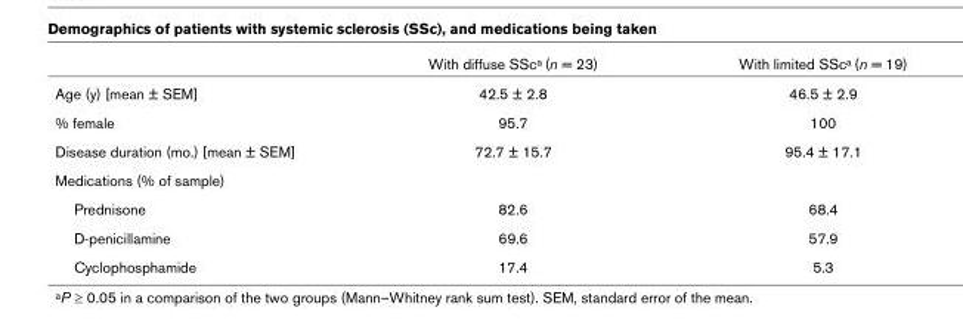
<table><thead><tr><td></td><td>With diffuse SSca (n = 23)</td><td>With limited SSca (n = 19)</td></tr></thead><tbody><tr><td>Age (y) [mean ± SEM]</td><td>42.5 ± 2.8</td><td>46.5 ± 2.9</td></tr><tr><td>% female</td><td>95.7</td><td>100</td></tr><tr><td>Disease duration (mo.) [mean ± SEM]</td><td>72.7 ± 15.7</td><td>95.4 ± 17.1</td></tr><tr><td colspan="3">Medications (% of sample)</td></tr><tr><td>Prednisone</td><td>82.6</td><td>68.4</td></tr><tr><td>D-penicillamine</td><td>69.6</td><td>57.9</td></tr><tr><td>Cyclophosphamide</td><td>17.4</td><td>5.3</td></tr></tbody></table>